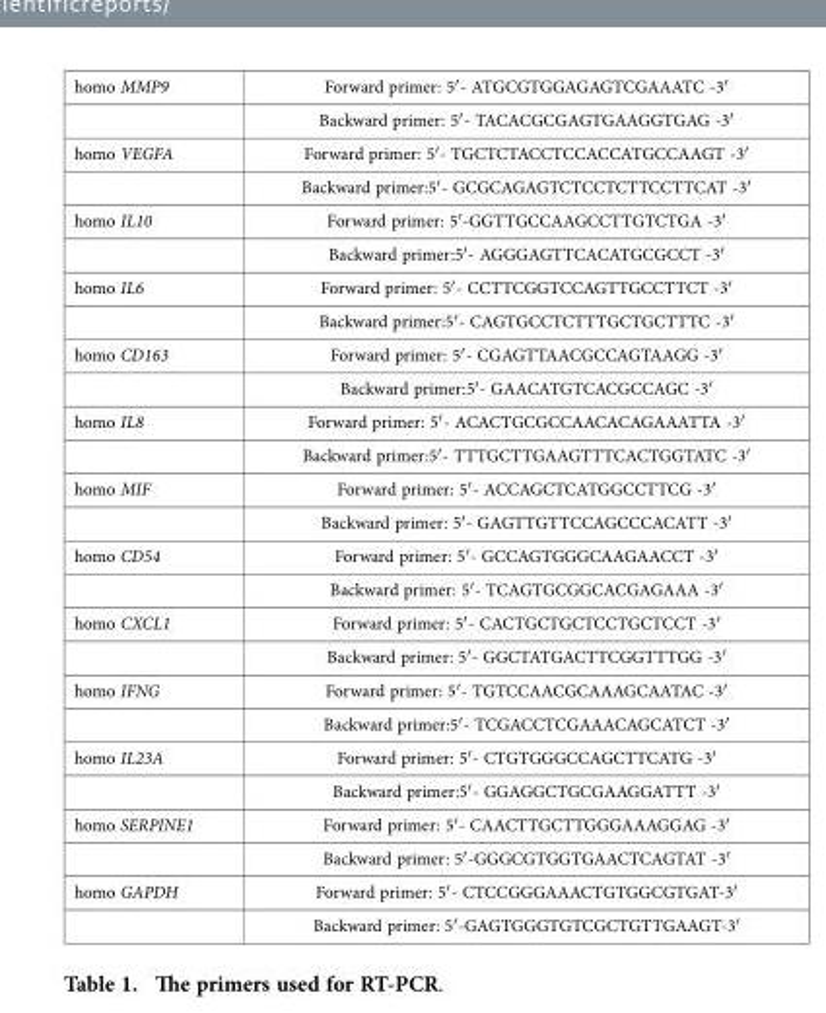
<table><tbody><tr><td rowspan="2">homo MMP9</td><td>Forward primer: 5′ - ATGCGTGGAGAGTCGAAATC -3′</td></tr><tr><td>Backward primer: 5′ - TACACGCGAGTGAAGGTGAG -3′</td></tr><tr><td rowspan="2">homo VEGFA</td><td>Forward primer: 5′ - TGCTCTACCTCCACCATGCCAAGT -3′</td></tr><tr><td>Backward primer:5′ - GCGCAGAGTCTCCTCTTCCTTCAT -3′</td></tr><tr><td rowspan="2">homo IL10</td><td>Forward primer: 5′ -GGTTGCCAAGCCTTGTCTGA -3′</td></tr><tr><td>Backward primer:5′ - AGGGAGTTCACATGCGCCT -3′</td></tr><tr><td rowspan="2">homo IL6</td><td>Forward primer: 5′ - CCTTCGGTCCAGTTGCCTTCT -3′</td></tr><tr><td>Backward primer:5′ - CAGTGCCTCTTTGCTGCTTTC -3′</td></tr><tr><td rowspan="2">homo CD163</td><td>Forward primer: 5′ - CGAGTTAACGCCAGTAAGG -3′</td></tr><tr><td>Backward primer:5′ - GAACATGTCACGCCAGC -3′</td></tr><tr><td rowspan="2">homo IL8</td><td>Forward primer: 5′ - ACACTGCGCCAACACAGAAATTA -3′</td></tr><tr><td>Backward primer:5′ - TTTGCTTGAAGTTTCACTGGTATC -3′</td></tr><tr><td rowspan="2">homo MIF</td><td>Forward primer: 5′ - ACCAGCTCATGGCCTTCG -3′</td></tr><tr><td>Backward primer: 5′ - GAGTTGTTCCAGCCCACATT -3′</td></tr><tr><td rowspan="2">homo CD54</td><td>Forward primer: 5′ - GCCAGTGGGCAAGAACCT -3′</td></tr><tr><td>Backward primer: 5′ - TCAGTGCGGCACGAGAAA -3′</td></tr><tr><td rowspan="2">homo CXCL1</td><td>Forward primer: 5′ - CACTGCTGCTCCTGCTCCT -3′</td></tr><tr><td>Backward primer: 5′ - GGCTATGACTTCGGTTTGG -3′</td></tr><tr><td rowspan="2">homo IFNG</td><td>Forward primer: 5′ - TGTCCAACGCAAAGCAATAC -3′</td></tr><tr><td>Backward primer:5′ - TCGACCTCGAAACAGCATCT -3′</td></tr><tr><td rowspan="2">homo IL23A</td><td>Forward primer: 5′ - CTGTGGGCCAGCTTCATG -3′</td></tr><tr><td>Backward primer:5′ - GGAGGCTGCGAAGGATTT -3′</td></tr><tr><td rowspan="2">homo SERPINE1</td><td>Forward primer: 5′ - CAACTTGCTTGGGAAAGGAG -3′</td></tr><tr><td>Backward primer: 5′ -GGGCGTGGTGAACTCAGTAT -3′</td></tr><tr><td rowspan="2">homo GAPDH</td><td>Forward primer: 5′ - CTCCGGGAAACTGTGGCGTGAT-3′</td></tr><tr><td>Backward primer: 5′ -GAGTGGGTGTCGCTGTTGAAGT-3′</td></tr></tbody></table>